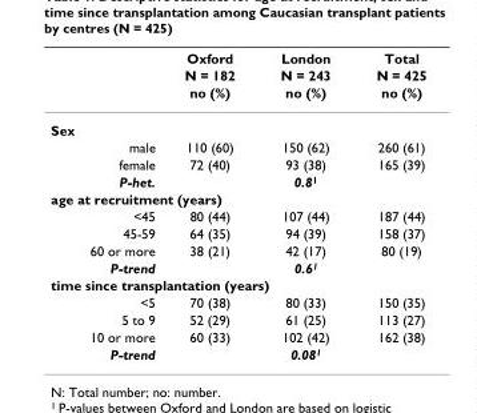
<table><thead><tr><td rowspan="3"></td><td rowspan="3">Oxford N = 182 no (%)</td><td rowspan="3">London N = 243 no (%)</td><td rowspan="3">Total N = 425 no (%)</td></tr><tr></tr><tr></tr></thead><tbody><tr><td colspan="4">Sex</td></tr><tr><td>male</td><td>110 (60)</td><td>150 (62)</td><td>260 (61)</td></tr><tr><td>female</td><td>72 (40)</td><td>93 (38)</td><td>165 (39)</td></tr><tr><td>P-het.</td><td></td><td>0.8<sup>1</sup></td><td></td></tr><tr><td colspan="4">age at recruitment (years)</td></tr><tr><td>&lt;45</td><td>80 (44)</td><td>107 (44)</td><td>187 (44)</td></tr><tr><td>45-59</td><td>64 (35)</td><td>94 (39)</td><td>158 (37)</td></tr><tr><td>60 or more</td><td>38 (21)</td><td>42 (17)</td><td>80 (19)</td></tr><tr><td>P-trend</td><td></td><td>0.6<sup>1</sup></td><td></td></tr><tr><td colspan="4">time since transplantation (years)</td></tr><tr><td>&lt;5</td><td>70 (38)</td><td>80 (33)</td><td>150 (35)</td></tr><tr><td>5 to 9</td><td>52 (29)</td><td>61 (25)</td><td>113 (27)</td></tr><tr><td>10 or more</td><td>60 (33)</td><td>102 (42)</td><td>162 (38)</td></tr><tr><td>P-trend</td><td></td><td>0.08<sup>1</sup></td><td></td></tr></tbody></table>